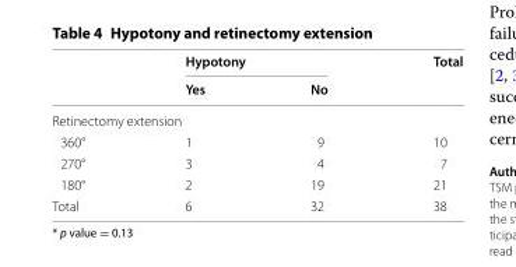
<table><thead><tr><td rowspan="2"></td><td colspan="2">Hypotony</td><td rowspan="2">Total</td></tr><tr><td>Yes</td><td>No</td></tr></thead><tbody><tr><td colspan="4">Retinectomy extension</td></tr><tr><td>360°</td><td>1</td><td>9</td><td>10</td></tr><tr><td>270°</td><td>3</td><td>4</td><td>7</td></tr><tr><td>180°</td><td>2</td><td>19</td><td>21</td></tr><tr><td>Total</td><td>6</td><td>32</td><td>38</td></tr></tbody></table>